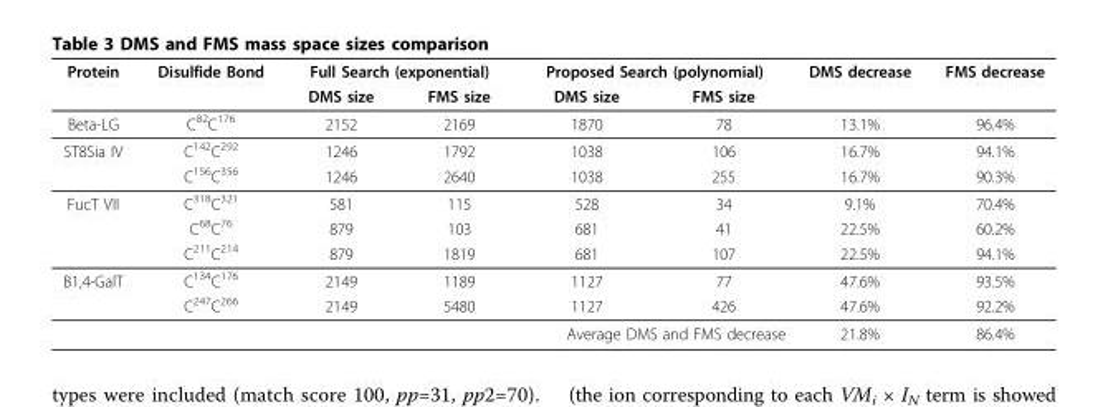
<table><thead><tr><td rowspan="2">Protein</td><td rowspan="2">Disulfide Bond</td><td colspan="2">Full Search (exponential)</td><td colspan="2">Proposed Search (polynomial)</td><td rowspan="2">DMS decrease</td><td rowspan="2">FMS decrease</td></tr><tr><td>DMS size</td><td>FMS size</td><td>DMS size</td><td>FMS size</td></tr></thead><tbody><tr><td>Beta-LG</td><td>C<sup>82</sup>C<sup>176</sup></td><td>2152</td><td>2169</td><td>1870</td><td>78</td><td>13.1%</td><td>96.4%</td></tr><tr><td rowspan="2">ST8Sia IV</td><td>C<sup>142</sup>C<sup>292</sup></td><td>1246</td><td>1792</td><td>1038</td><td>106</td><td>16.7%</td><td>94.1%</td></tr><tr><td>C<sup>156</sup>C<sup>356</sup></td><td>1246</td><td>2640</td><td>1038</td><td>255</td><td>16.7%</td><td>90.3%</td></tr><tr><td rowspan="3">FucT VII</td><td>C<sup>318</sup>C<sup>321</sup></td><td>581</td><td>115</td><td>528</td><td>34</td><td>9.1%</td><td>70.4%</td></tr><tr><td>C<sup>68</sup>C<sup>76</sup></td><td>879</td><td>103</td><td>681</td><td>41</td><td>22.5%</td><td>60.2%</td></tr><tr><td>C<sup>211</sup>C<sup>214</sup></td><td>879</td><td>1819</td><td>681</td><td>107</td><td>22.5%</td><td>94.1%</td></tr><tr><td rowspan="2">B1,4-GalT</td><td>C<sup>134</sup>C<sup>176</sup></td><td>2149</td><td>1189</td><td>1127</td><td>77</td><td>47.6%</td><td>93.5%</td></tr><tr><td>C<sup>247</sup>C<sup>266</sup></td><td>2149</td><td>5480</td><td>1127</td><td>426</td><td>47.6%</td><td>92.2%</td></tr><tr><td colspan="6">Average DMS and FMS decrease</td><td>21.8%</td><td>86.4%</td></tr></tbody></table>